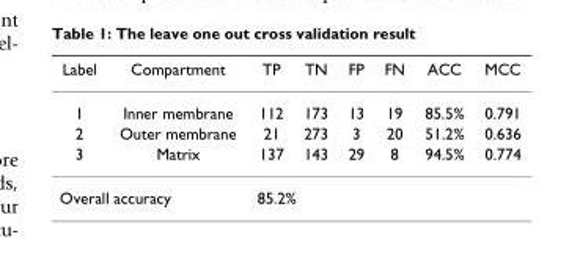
<table><thead><tr><td>Label</td><td>Compartment</td><td>TP</td><td>TN</td><td>FP</td><td>FN</td><td>ACC</td><td>MCC</td></tr></thead><tbody><tr><td>1</td><td>Inner membrane</td><td>112</td><td>173</td><td>13</td><td>19</td><td>85.5%</td><td>0.791</td></tr><tr><td>2</td><td>Outer membrane</td><td>21</td><td>273</td><td>3</td><td>20</td><td>51.2%</td><td>0.636</td></tr><tr><td>3</td><td>Matrix</td><td>137</td><td>143</td><td>29</td><td>8</td><td>94.5%</td><td>0.774</td></tr><tr><td colspan="2">Overall accuracy</td><td colspan="6">85.2%</td></tr></tbody></table>